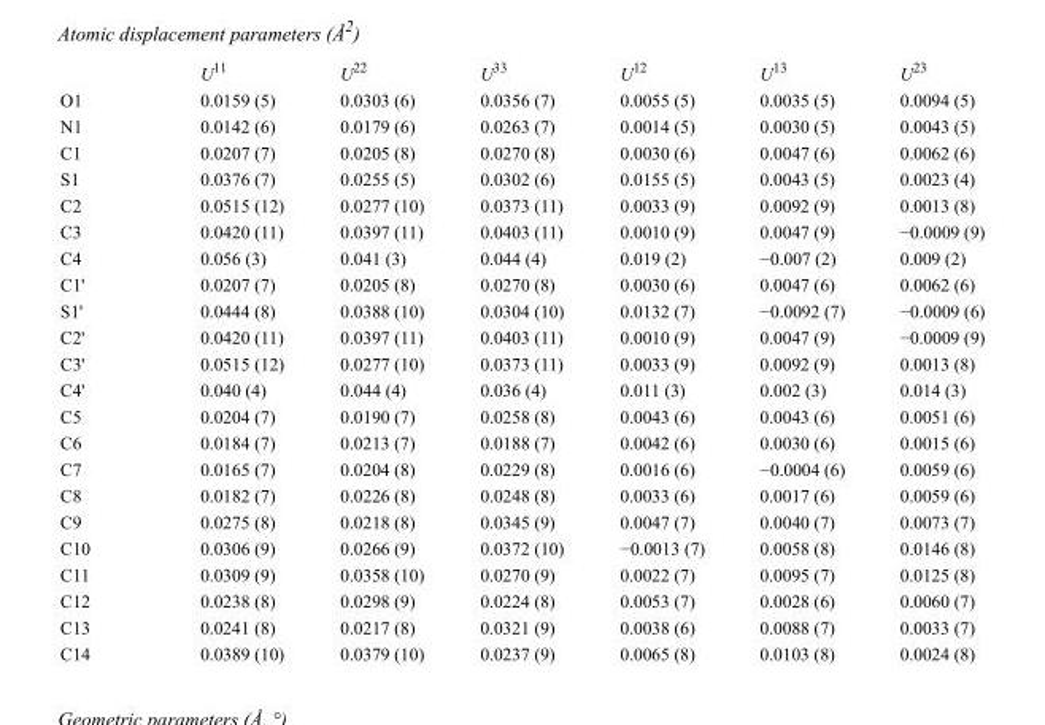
<table><thead><tr><td></td><td>U<sup>11</sup></td><td>U<sup>22</sup></td><td>U<sup>33</sup></td><td>U<sup>12</sup></td><td>U<sup>13</sup></td><td>U<sup>23</sup></td></tr></thead><tbody><tr><td>O1</td><td>0.0159 (5)</td><td>0.0303 (6)</td><td>0.0356 (7)</td><td>0.0055 (5)</td><td>0.0035 (5)</td><td>0.0094 (5)</td></tr><tr><td>N1</td><td>0.0142 (6)</td><td>0.0179 (6)</td><td>0.0263 (7)</td><td>0.0014 (5)</td><td>0.0030 (5)</td><td>0.0043 (5)</td></tr><tr><td>C1</td><td>0.0207 (7)</td><td>0.0205 (8)</td><td>0.0270 (8)</td><td>0.0030 (6)</td><td>0.0047 (6)</td><td>0.0062 (6)</td></tr><tr><td>S1</td><td>0.0376 (7)</td><td>0.0255 (5)</td><td>0.0302 (6)</td><td>0.0155 (5)</td><td>0.0043 (5)</td><td>0.0023 (4)</td></tr><tr><td>C2</td><td>0.0515 (12)</td><td>0.0277 (10)</td><td>0.0373 (11)</td><td>0.0033 (9)</td><td>0.0092 (9)</td><td>0.0013 (8)</td></tr><tr><td>C3</td><td>0.0420 (11)</td><td>0.0397 (11)</td><td>0.0403 (11)</td><td>0.0010 (9)</td><td>0.0047 (9)</td><td>−0.0009 (9)</td></tr><tr><td>C4</td><td>0.056 (3)</td><td>0.041 (3)</td><td>0.044 (4)</td><td>0.019 (2)</td><td>−0.007 (2)</td><td>0.009 (2)</td></tr><tr><td>C1&#x27;</td><td>0.0207 (7)</td><td>0.0205 (8)</td><td>0.0270 (8)</td><td>0.0030 (6)</td><td>0.0047 (6)</td><td>0.0062 (6)</td></tr><tr><td>S1&#x27;</td><td>0.0444 (8)</td><td>0.0388 (10)</td><td>0.0304 (10)</td><td>0.0132 (7)</td><td>−0.0092 (7)</td><td>−0.0009 (6)</td></tr><tr><td>C2&#x27;</td><td>0.0420 (11)</td><td>0.0397 (11)</td><td>0.0403 (11)</td><td>0.0010 (9)</td><td>0.0047 (9)</td><td>−0.0009 (9)</td></tr><tr><td>C3&#x27;</td><td>0.0515 (12)</td><td>0.0277 (10)</td><td>0.0373 (11)</td><td>0.0033 (9)</td><td>0.0092 (9)</td><td>0.0013 (8)</td></tr><tr><td>C4&#x27;</td><td>0.040 (4)</td><td>0.044 (4)</td><td>0.036 (4)</td><td>0.011 (3)</td><td>0.002 (3)</td><td>0.014 (3)</td></tr><tr><td>C5</td><td>0.0204 (7)</td><td>0.0190 (7)</td><td>0.0258 (8)</td><td>0.0043 (6)</td><td>0.0043 (6)</td><td>0.0051 (6)</td></tr><tr><td>C6</td><td>0.0184 (7)</td><td>0.0213 (7)</td><td>0.0188 (7)</td><td>0.0042 (6)</td><td>0.0030 (6)</td><td>0.0015 (6)</td></tr><tr><td>C7</td><td>0.0165 (7)</td><td>0.0204 (8)</td><td>0.0229 (8)</td><td>0.0016 (6)</td><td>−0.0004 (6)</td><td>0.0059 (6)</td></tr><tr><td>C8</td><td>0.0182 (7)</td><td>0.0226 (8)</td><td>0.0248 (8)</td><td>0.0033 (6)</td><td>0.0017 (6)</td><td>0.0059 (6)</td></tr><tr><td>C9</td><td>0.0275 (8)</td><td>0.0218 (8)</td><td>0.0345 (9)</td><td>0.0047 (7)</td><td>0.0040 (7)</td><td>0.0073 (7)</td></tr><tr><td>C10</td><td>0.0306 (9)</td><td>0.0266 (9)</td><td>0.0372 (10)</td><td>−0.0013 (7)</td><td>0.0058 (8)</td><td>0.0146 (8)</td></tr><tr><td>C11</td><td>0.0309 (9)</td><td>0.0358 (10)</td><td>0.0270 (9)</td><td>0.0022 (7)</td><td>0.0095 (7)</td><td>0.0125 (8)</td></tr><tr><td>C12</td><td>0.0238 (8)</td><td>0.0298 (9)</td><td>0.0224 (8)</td><td>0.0053 (7)</td><td>0.0028 (6)</td><td>0.0060 (7)</td></tr><tr><td>C13</td><td>0.0241 (8)</td><td>0.0217 (8)</td><td>0.0321 (9)</td><td>0.0038 (6)</td><td>0.0088 (7)</td><td>0.0033 (7)</td></tr><tr><td>C14</td><td>0.0389 (10)</td><td>0.0379 (10)</td><td>0.0237 (9)</td><td>0.0065 (8)</td><td>0.0103 (8)</td><td>0.0024 (8)</td></tr></tbody></table>